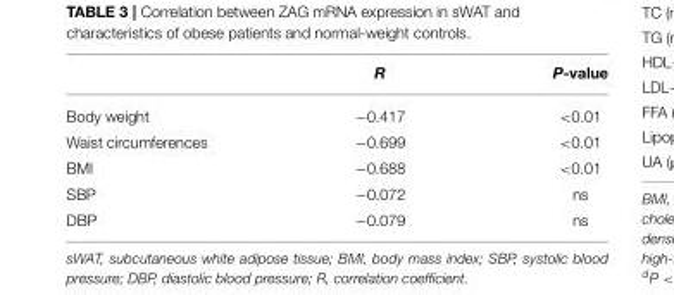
<table><thead><tr><td></td><td>R</td><td>P-value</td></tr></thead><tbody><tr><td>Body weight</td><td>−0.417</td><td>&lt;0.01</td></tr><tr><td>Waist circumferences</td><td>−0.699</td><td>&lt;0.01</td></tr><tr><td>BMI</td><td>−0.688</td><td>&lt;0.01</td></tr><tr><td>SBP</td><td>−0.072</td><td>ns</td></tr><tr><td>DBP</td><td>−0.079</td><td>ns</td></tr></tbody></table>